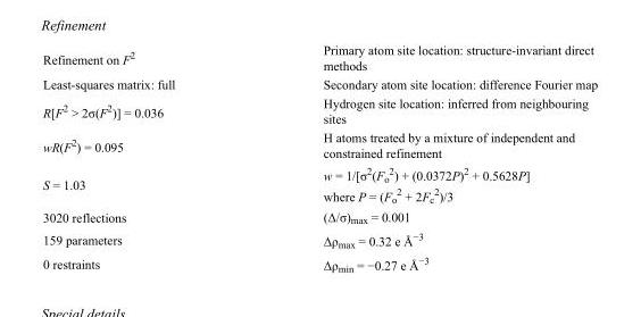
<table><tbody><tr><td>Refinement on F<sup>2</sup></td><td>Primary atom site location: structure-invariant direct methods</td></tr><tr><td>Least-squares matrix: full</td><td>Secondary atom site location: difference Fourier map</td></tr><tr><td>R[F<sup>2</sup> &gt; 2σ(F<sup>2</sup>)] = 0.036</td><td>Hydrogen site location: inferred from neighbouring sites</td></tr><tr><td>wR(F<sup>2</sup>) = 0.095</td><td>H atoms treated by a mixture of independent and constrained refinement</td></tr><tr><td>S = 1.03</td><td>w = 1/[σ<sup>2</sup>(F<sub>o</sub> <sup>2</sup>) + (0.0372P)<sup>2</sup> + 0.5628P] where P = (F<sub>o</sub> <sup>2</sup> + 2F<sub>c</sub> <sup>2</sup>)/3</td></tr><tr><td>3020 reflections</td><td>(Δ/σ)<sub>max</sub> = 0.001</td></tr><tr><td>159 parameters</td><td>Δρ<sub>max</sub> = 0.32 e Å<sup>−3</sup></td></tr><tr><td>0 restraints</td><td>Δρ<sub>min</sub> = −0.27 e Å<sup>−3</sup></td></tr></tbody></table>